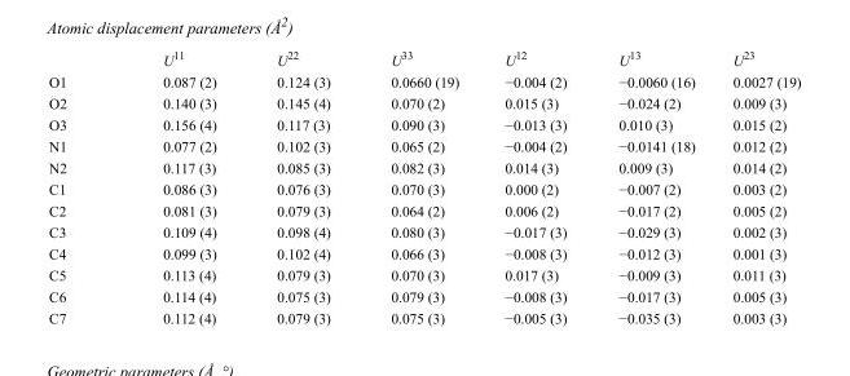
<table><thead><tr><td></td><td>U<sup>11</sup></td><td>U<sup>22</sup></td><td>U<sup>33</sup></td><td>U<sup>12</sup></td><td>U<sup>13</sup></td><td>U<sup>23</sup></td></tr></thead><tbody><tr><td>O1</td><td>0.087 (2)</td><td>0.124 (3)</td><td>0.0660 (19)</td><td>−0.004 (2)</td><td>−0.0060 (16)</td><td>0.0027 (19)</td></tr><tr><td>O2</td><td>0.140 (3)</td><td>0.145 (4)</td><td>0.070 (2)</td><td>0.015 (3)</td><td>−0.024 (2)</td><td>0.009 (3)</td></tr><tr><td>O3</td><td>0.156 (4)</td><td>0.117 (3)</td><td>0.090 (3)</td><td>−0.013 (3)</td><td>0.010 (3)</td><td>0.015 (2)</td></tr><tr><td>N1</td><td>0.077 (2)</td><td>0.102 (3)</td><td>0.065 (2)</td><td>−0.004 (2)</td><td>−0.0141 (18)</td><td>0.012 (2)</td></tr><tr><td>N2</td><td>0.117 (3)</td><td>0.085 (3)</td><td>0.082 (3)</td><td>0.014 (3)</td><td>0.009 (3)</td><td>0.014 (2)</td></tr><tr><td>C1</td><td>0.086 (3)</td><td>0.076 (3)</td><td>0.070 (3)</td><td>0.000 (2)</td><td>−0.007 (2)</td><td>0.003 (2)</td></tr><tr><td>C2</td><td>0.081 (3)</td><td>0.079 (3)</td><td>0.064 (2)</td><td>0.006 (2)</td><td>−0.017 (2)</td><td>0.005 (2)</td></tr><tr><td>C3</td><td>0.109 (4)</td><td>0.098 (4)</td><td>0.080 (3)</td><td>−0.017 (3)</td><td>−0.029 (3)</td><td>0.002 (3)</td></tr><tr><td>C4</td><td>0.099 (3)</td><td>0.102 (4)</td><td>0.066 (3)</td><td>−0.008 (3)</td><td>−0.012 (3)</td><td>0.001 (3)</td></tr><tr><td>C5</td><td>0.113 (4)</td><td>0.079 (3)</td><td>0.070 (3)</td><td>0.017 (3)</td><td>−0.009 (3)</td><td>0.011 (3)</td></tr><tr><td>C6</td><td>0.114 (4)</td><td>0.075 (3)</td><td>0.079 (3)</td><td>−0.008 (3)</td><td>−0.017 (3)</td><td>0.005 (3)</td></tr><tr><td>C7</td><td>0.112 (4)</td><td>0.079 (3)</td><td>0.075 (3)</td><td>−0.005 (3)</td><td>−0.035 (3)</td><td>0.003 (3)</td></tr></tbody></table>